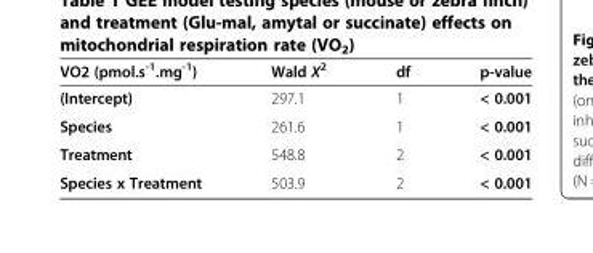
<table><thead><tr><td>VO2 (pmol.s<sup>-1</sup>.mg<sup>-1</sup>)</td><td>Wald Χ2</td><td>df</td><td>p-value</td></tr></thead><tbody><tr><td>(Intercept)</td><td>297.1</td><td>1</td><td>&lt; 0.001</td></tr><tr><td>Species</td><td>261.6</td><td>1</td><td>&lt; 0.001</td></tr><tr><td>Treatment</td><td>548.8</td><td>2</td><td>&lt; 0.001</td></tr><tr><td>Species x Treatment</td><td>503.9</td><td>2</td><td>&lt; 0.001</td></tr></tbody></table>